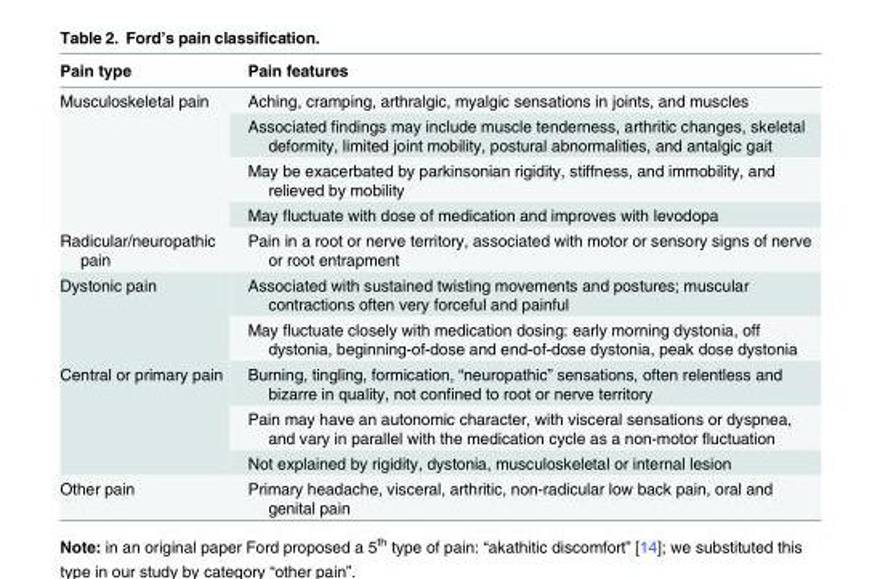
<table><thead><tr><td>Pain type</td><td>Pain features</td></tr></thead><tbody><tr><td rowspan="4">Musculoskeletal pain</td><td>Aching, cramping, arthralgic, myalgic sensations in joints, and muscles</td></tr><tr><td>Associated findings may include muscle tenderness, arthritic changes, skeletal deformity, limited joint mobility, postural abnormalities, and antalgic gait</td></tr><tr><td>May be exacerbated by parkinsonian rigidity, stiffness, and immobility, and relieved by mobility</td></tr><tr><td>May fluctuate with dose of medication and improves with levodopa</td></tr><tr><td>Radicular/neuropathic pain</td><td>Pain in a root or nerve territory, associated with motor or sensory signs of nerve or root entrapment</td></tr><tr><td rowspan="2">Dystonic pain</td><td>Associated with sustained twisting movements and postures; muscular contractions often very forceful and painful</td></tr><tr><td>May fluctuate closely with medication dosing: early morning dystonia, off dystonia, beginning-of-dose and end-of-dose dystonia, peak dose dystonia</td></tr><tr><td rowspan="3">Central or primary pain</td><td>Burning, tingling, formication, “neuropathic” sensations, often relentless and bizarre in quality, not confined to root or nerve territory</td></tr><tr><td>Pain may have an autonomic character, with visceral sensations or dyspnea, and vary in parallel with the medication cycle as a non-motor fluctuation</td></tr><tr><td>Not explained by rigidity, dystonia, musculoskeletal or internal lesion</td></tr><tr><td>Other pain</td><td>Primary headache, visceral, arthritic, non-radicular low back pain, oral and genital pain</td></tr></tbody></table>